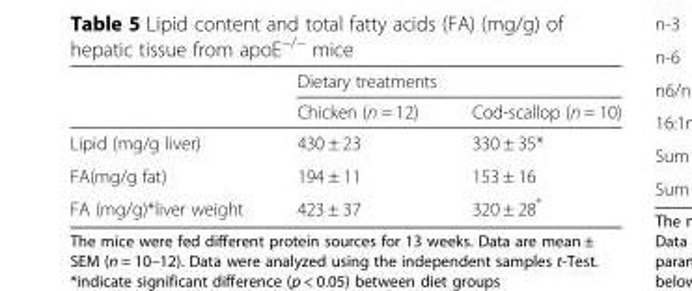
<table><thead><tr><td rowspan="2"></td><td colspan="2">Dietary treatments</td></tr><tr><td>Chicken (n = 12)</td><td>Cod-scallop (n = 10)</td></tr></thead><tbody><tr><td>Lipid (mg/g liver)</td><td>430 ± 23</td><td>330 ± 35*</td></tr><tr><td>FA(mg/g fat)</td><td>194 ± 11</td><td>153 ± 16</td></tr><tr><td>FA (mg/g)*liver weight</td><td>423 ± 37</td><td>320 ± 28*</td></tr></tbody></table>